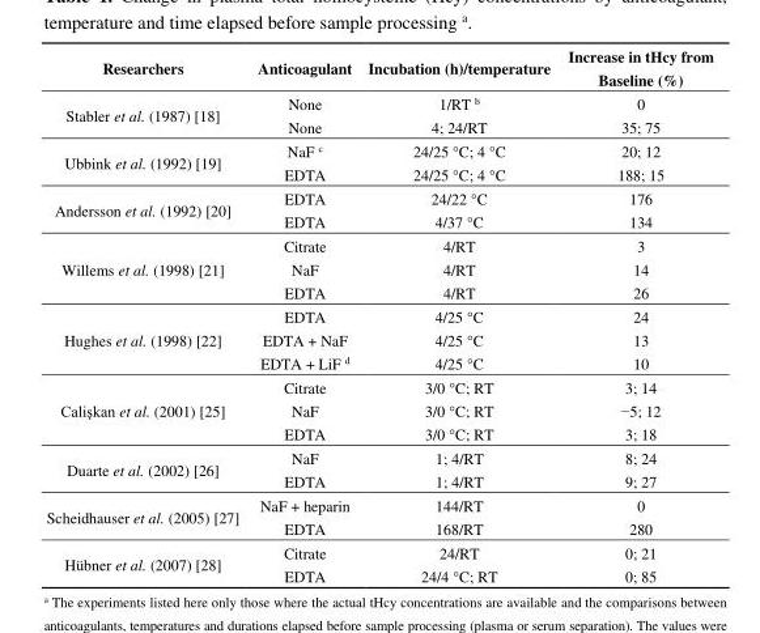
<table><thead><tr><td>Researchers</td><td>Anticoagulant</td><td>Incubation (h)/temperature</td><td>Increase in tHcy from Baseline (%)</td></tr></thead><tbody><tr><td rowspan="2">Stabler et al. (1987) [18]</td><td>None</td><td>1/RT <sup>b</sup></td><td>0</td></tr><tr><td>None</td><td>4; 24/RT</td><td>35; 75</td></tr><tr><td rowspan="2">Ubbink et al. (1992) [19]</td><td>NaF <sup>c</sup></td><td>24/25 °C; 4 °C</td><td>20; 12</td></tr><tr><td>EDTA</td><td>24/25 °C; 4 °C</td><td>188; 15</td></tr><tr><td rowspan="2">Andersson et al. (1992) [20]</td><td>EDTA</td><td>24/22 °C</td><td>176</td></tr><tr><td>EDTA</td><td>4/37 °C</td><td>134</td></tr><tr><td rowspan="3">Willems et al. (1998) [21]</td><td>Citrate</td><td>4/RT</td><td>3</td></tr><tr><td>NaF</td><td>4/RT</td><td>14</td></tr><tr><td>EDTA</td><td>4/RT</td><td>26</td></tr><tr><td rowspan="3">Hughes et al. (1998) [22]</td><td>EDTA</td><td>4/25 °C</td><td>24</td></tr><tr><td>EDTA + NaF</td><td>4/25 °C</td><td>13</td></tr><tr><td>EDTA + LiF <sup>d</sup></td><td>4/25 °C</td><td>10</td></tr><tr><td rowspan="3">Calişkan et al. (2001) [25]</td><td>Citrate</td><td>3/0 °C; RT</td><td>3; 14</td></tr><tr><td>NaF</td><td>3/0 °C; RT</td><td>−5; 12</td></tr><tr><td>EDTA</td><td>3/0 °C; RT</td><td>3; 18</td></tr><tr><td rowspan="2">Duarte et al. (2002) [26]</td><td>NaF</td><td>1; 4/RT</td><td>8; 24</td></tr><tr><td>EDTA</td><td>1; 4/RT</td><td>9; 27</td></tr><tr><td rowspan="2">Scheidhauser et al. (2005) [27]</td><td>NaF + heparin</td><td>144/RT</td><td>0</td></tr><tr><td>EDTA</td><td>168/RT</td><td>280</td></tr><tr><td rowspan="2">Hübner et al. (2007) [28]</td><td>Citrate</td><td>24/RT</td><td>0; 21</td></tr><tr><td>EDTA</td><td>24/4 °C; RT</td><td>0; 85</td></tr></tbody></table>